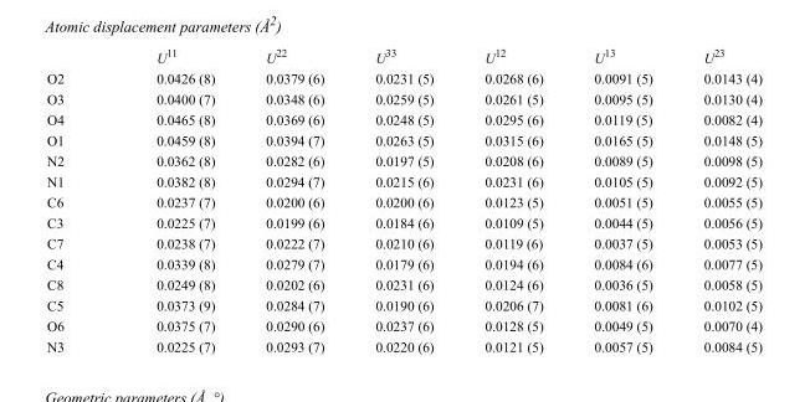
<table><thead><tr><td></td><td>U<sup>11</sup></td><td>U<sup>22</sup></td><td>U<sup>33</sup></td><td>U<sup>12</sup></td><td>U<sup>13</sup></td><td>U<sup>23</sup></td></tr></thead><tbody><tr><td>O2</td><td>0.0426 (8)</td><td>0.0379 (6)</td><td>0.0231 (5)</td><td>0.0268 (6)</td><td>0.0091 (5)</td><td>0.0143 (4)</td></tr><tr><td>O3</td><td>0.0400 (7)</td><td>0.0348 (6)</td><td>0.0259 (5)</td><td>0.0261 (5)</td><td>0.0095 (5)</td><td>0.0130 (4)</td></tr><tr><td>O4</td><td>0.0465 (8)</td><td>0.0369 (6)</td><td>0.0248 (5)</td><td>0.0295 (6)</td><td>0.0119 (5)</td><td>0.0082 (4)</td></tr><tr><td>O1</td><td>0.0459 (8)</td><td>0.0394 (7)</td><td>0.0263 (5)</td><td>0.0315 (6)</td><td>0.0165 (5)</td><td>0.0148 (5)</td></tr><tr><td>N2</td><td>0.0362 (8)</td><td>0.0282 (6)</td><td>0.0197 (5)</td><td>0.0208 (6)</td><td>0.0089 (5)</td><td>0.0098 (5)</td></tr><tr><td>N1</td><td>0.0382 (8)</td><td>0.0294 (7)</td><td>0.0215 (6)</td><td>0.0231 (6)</td><td>0.0105 (5)</td><td>0.0092 (5)</td></tr><tr><td>C6</td><td>0.0237 (7)</td><td>0.0200 (6)</td><td>0.0200 (6)</td><td>0.0123 (5)</td><td>0.0051 (5)</td><td>0.0055 (5)</td></tr><tr><td>C3</td><td>0.0225 (7)</td><td>0.0199 (6)</td><td>0.0184 (6)</td><td>0.0109 (5)</td><td>0.0044 (5)</td><td>0.0056 (5)</td></tr><tr><td>C7</td><td>0.0238 (7)</td><td>0.0222 (7)</td><td>0.0210 (6)</td><td>0.0119 (6)</td><td>0.0037 (5)</td><td>0.0053 (5)</td></tr><tr><td>C4</td><td>0.0339 (8)</td><td>0.0279 (7)</td><td>0.0179 (6)</td><td>0.0194 (6)</td><td>0.0084 (6)</td><td>0.0077 (5)</td></tr><tr><td>C8</td><td>0.0249 (8)</td><td>0.0202 (6)</td><td>0.0231 (6)</td><td>0.0124 (6)</td><td>0.0036 (5)</td><td>0.0058 (5)</td></tr><tr><td>C5</td><td>0.0373 (9)</td><td>0.0284 (7)</td><td>0.0190 (6)</td><td>0.0206 (7)</td><td>0.0081 (6)</td><td>0.0102 (5)</td></tr><tr><td>O6</td><td>0.0375 (7)</td><td>0.0290 (6)</td><td>0.0237 (6)</td><td>0.0128 (5)</td><td>0.0049 (5)</td><td>0.0070 (4)</td></tr><tr><td>N3</td><td>0.0225 (7)</td><td>0.0293 (7)</td><td>0.0220 (6)</td><td>0.0121 (5)</td><td>0.0057 (5)</td><td>0.0084 (5)</td></tr></tbody></table>